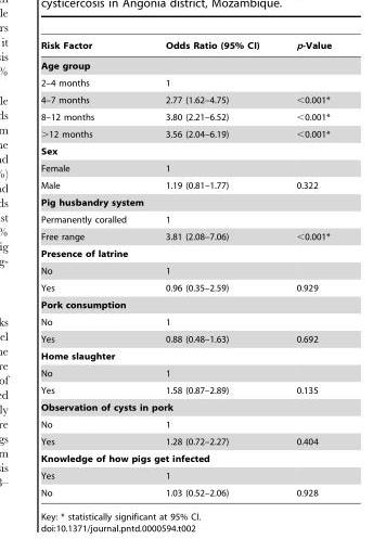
<table><thead><tr><td>Risk Factor</td><td>Odds Ratio (95% CI)</td><td>p-Value</td></tr></thead><tbody><tr><td colspan="3">Age group</td></tr><tr><td>2–4 months</td><td>1</td><td></td></tr><tr><td>4–7 months</td><td>2.77 (1.62–4.75)</td><td>&lt;0.001*</td></tr><tr><td>8–12 months</td><td>3.80 (2.21–6.52)</td><td>&lt;0.001*</td></tr><tr><td>&gt;12 months</td><td>3.56 (2.04–6.19)</td><td>&lt;0.001*</td></tr><tr><td colspan="3">Sex</td></tr><tr><td>Female</td><td>1</td><td></td></tr><tr><td>Male</td><td>1.19 (0.81–1.77)</td><td>0.322</td></tr><tr><td colspan="3">Pig husbandry system</td></tr><tr><td>Permanently coralled</td><td>1</td><td></td></tr><tr><td>Free range</td><td>3.81 (2.08–7.06)</td><td>&lt;0.001*</td></tr><tr><td colspan="3">Presence of latrine</td></tr><tr><td>No</td><td>1</td><td></td></tr><tr><td>Yes</td><td>0.96 (0.35–2.59)</td><td>0.929</td></tr><tr><td colspan="3">Pork consumption</td></tr><tr><td>No</td><td>1</td><td></td></tr><tr><td>Yes</td><td>0.88 (0.48–1.63)</td><td>0.692</td></tr><tr><td colspan="3">Home slaughter</td></tr><tr><td>No</td><td>1</td><td></td></tr><tr><td>Yes</td><td>1.58 (0.87–2.89)</td><td>0.135</td></tr><tr><td colspan="3">Observation of cysts in pork</td></tr><tr><td>No</td><td>1</td><td></td></tr><tr><td>Yes</td><td>1.28 (0.72–2.27)</td><td>0.404</td></tr><tr><td colspan="3">Knowledge of how pigs get infected</td></tr><tr><td>Yes</td><td>1</td><td></td></tr><tr><td>No</td><td>1.03 (0.52–2.06)</td><td>0.928</td></tr></tbody></table>